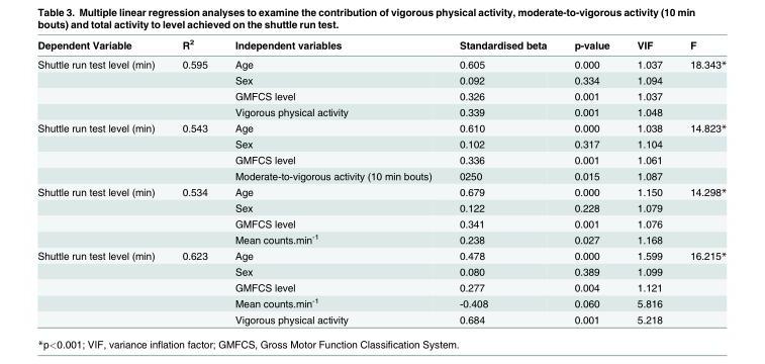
<table><thead><tr><td>Dependent Variable</td><td>R<sup>2</sup></td><td>Independent variables</td><td>Standardised beta</td><td>p-value</td><td>VIF</td><td>F</td></tr></thead><tbody><tr><td rowspan="4">Shuttle run test level (min)</td><td>0.595</td><td>Age</td><td>0.605</td><td>0.000</td><td>1.037</td><td>18.343*</td></tr><tr><td></td><td>Sex</td><td>0.092</td><td>0.334</td><td>1.094</td><td></td></tr><tr><td></td><td>GMFCS level</td><td>0.326</td><td>0.001</td><td>1.037</td><td></td></tr><tr><td></td><td>Vigorous physical activity</td><td>0.339</td><td>0.001</td><td>1.048</td><td></td></tr><tr><td rowspan="4">Shuttle run test level (min)</td><td>0.543</td><td>Age</td><td>0.610</td><td>0.000</td><td>1.038</td><td>14.823*</td></tr><tr><td></td><td>Sex</td><td>0.102</td><td>0.317</td><td>1.104</td><td></td></tr><tr><td></td><td>GMFCS level</td><td>0.336</td><td>0.001</td><td>1.061</td><td></td></tr><tr><td></td><td>Moderate-to-vigorous activity (10 min bouts)</td><td>0250</td><td>0.015</td><td>1.087</td><td></td></tr><tr><td rowspan="4">Shuttle run test level (min)</td><td>0.534</td><td>Age</td><td>0.679</td><td>0.000</td><td>1.150</td><td>14.298*</td></tr><tr><td></td><td>Sex</td><td>0.122</td><td>0.228</td><td>1.079</td><td></td></tr><tr><td></td><td>GMFCS level</td><td>0.341</td><td>0.001</td><td>1.076</td><td></td></tr><tr><td></td><td>Mean counts.min<sup>-1</sup></td><td>0.238</td><td>0.027</td><td>1.168</td><td></td></tr><tr><td rowspan="5">Shuttle run test level (min)</td><td>0.623</td><td>Age</td><td>0.478</td><td>0.000</td><td>1.599</td><td>16.215*</td></tr><tr><td></td><td>Sex</td><td>0.080</td><td>0.389</td><td>1.099</td><td></td></tr><tr><td></td><td>GMFCS level</td><td>0.277</td><td>0.004</td><td>1.121</td><td></td></tr><tr><td></td><td>Mean counts.min<sup>-1</sup></td><td>-0.408</td><td>0.060</td><td>5.816</td><td></td></tr><tr><td></td><td>Vigorous physical activity</td><td>0.684</td><td>0.001</td><td>5.218</td><td></td></tr></tbody></table>